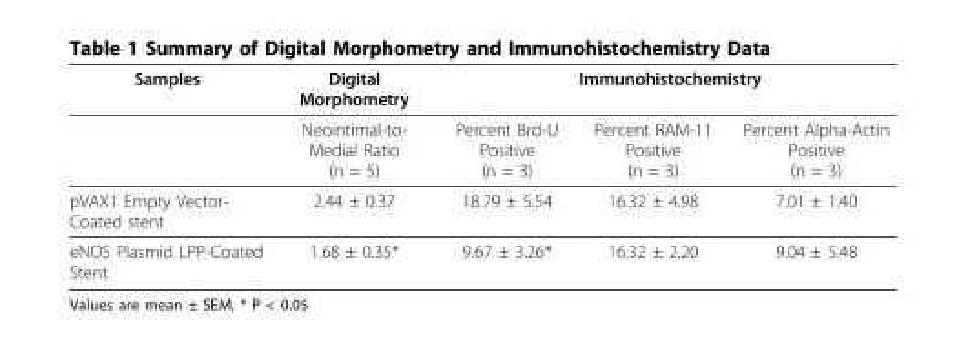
<table><thead><tr><td rowspan="2">Samples</td><td rowspan="2">Digital Morphometry Neointimal-to- Medial Ratio (n = 5)</td><td colspan="3">Immunohistochemistry</td></tr><tr><td>Percent Brd-U Positive (n = 3)</td><td>Percent RAM-11 Positive (n = 3)</td><td>Percent Alpha-Actin Positive (n = 3)</td></tr></thead><tbody><tr><td>pVAX1 Empty Vector- Coated stent</td><td>2.44 ± 0.37</td><td>18.79 ± 5.54</td><td>16.32 ± 4.98</td><td>7.01 ± 1.40</td></tr><tr><td>eNOS Plasmid LPP-Coated Stent</td><td>1.68 ± 0.35*</td><td>9.67 ± 3.26*</td><td>16.32 ± 2.20</td><td>9.04 ± 5.48</td></tr></tbody></table>